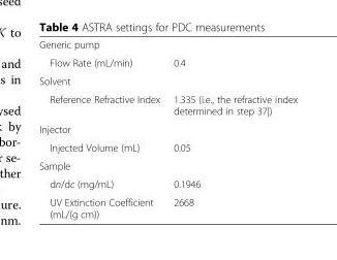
<table><tbody><tr><td colspan="2">Generic pump</td></tr><tr><td>Flow Rate (mL/min)</td><td>0.4</td></tr><tr><td colspan="2">Solvent</td></tr><tr><td>Reference Refractive Index</td><td>1.335 (i.e., the refractive index determined in step 37|)</td></tr><tr><td colspan="2">Injector</td></tr><tr><td>Injected Volume (mL)</td><td>0.05</td></tr><tr><td colspan="2">Sample</td></tr><tr><td>dn/dc (mg/mL)</td><td>0.1946</td></tr><tr><td>UV Extinction Coefficient (mL/(g cm))</td><td>2668</td></tr></tbody></table>